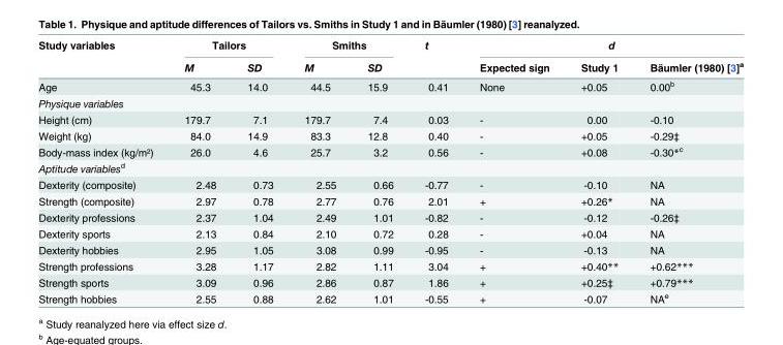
<table><thead><tr><td rowspan="2">Study variables</td><td colspan="2">Tailors</td><td colspan="2">Smiths</td><td rowspan="2">t</td><td colspan="3">d</td></tr><tr><td>M</td><td>SD</td><td>M</td><td>SD</td><td>Expected sign</td><td>Study 1</td><td>Bäumler (1980) [3]<sup>a</sup></td></tr></thead><tbody><tr><td>Age</td><td>45.3</td><td>14.0</td><td>44.5</td><td>15.9</td><td>0.41</td><td>None</td><td>+0.05</td><td>0.00<sup>b</sup></td></tr><tr><td colspan="9">Physique variables</td></tr><tr><td>Height (cm)</td><td>179.7</td><td>7.1</td><td>179.7</td><td>7.4</td><td>0.03</td><td>-</td><td>0.00</td><td>-0.10</td></tr><tr><td>Weight (kg)</td><td>84.0</td><td>14.9</td><td>83.3</td><td>12.8</td><td>0.40</td><td>-</td><td>+0.05</td><td>-0.29‡</td></tr><tr><td>Body-mass index (kg/m²)</td><td>26.0</td><td>4.6</td><td>25.7</td><td>3.2</td><td>0.56</td><td>-</td><td>+0.08</td><td>-0.30*<sup>c</sup></td></tr><tr><td colspan="9">Aptitude variables<sup>d</sup></td></tr><tr><td>Dexterity (composite)</td><td>2.48</td><td>0.73</td><td>2.55</td><td>0.66</td><td>-0.77</td><td>-</td><td>-0.10</td><td>NA</td></tr><tr><td>Strength (composite)</td><td>2.97</td><td>0.78</td><td>2.77</td><td>0.76</td><td>2.01</td><td>+</td><td>+0.26*</td><td>NA</td></tr><tr><td>Dexterity professions</td><td>2.37</td><td>1.04</td><td>2.49</td><td>1.01</td><td>-0.82</td><td>-</td><td>-0.12</td><td>-0.26‡</td></tr><tr><td>Dexterity sports</td><td>2.13</td><td>0.84</td><td>2.10</td><td>0.72</td><td>0.28</td><td>-</td><td>+0.04</td><td>NA</td></tr><tr><td>Dexterity hobbies</td><td>2.95</td><td>1.05</td><td>3.08</td><td>0.99</td><td>-0.95</td><td>-</td><td>-0.13</td><td>NA</td></tr><tr><td>Strength professions</td><td>3.28</td><td>1.17</td><td>2.82</td><td>1.11</td><td>3.04</td><td>+</td><td>+0.40**</td><td>+0.62***</td></tr><tr><td>Strength sports</td><td>3.09</td><td>0.96</td><td>2.86</td><td>0.87</td><td>1.86</td><td>+</td><td>+0.25‡</td><td>+0.79***</td></tr><tr><td>Strength hobbies</td><td>2.55</td><td>0.88</td><td>2.62</td><td>1.01</td><td>-0.55</td><td>+</td><td>-0.07</td><td>NA<sup>e</sup></td></tr></tbody></table>